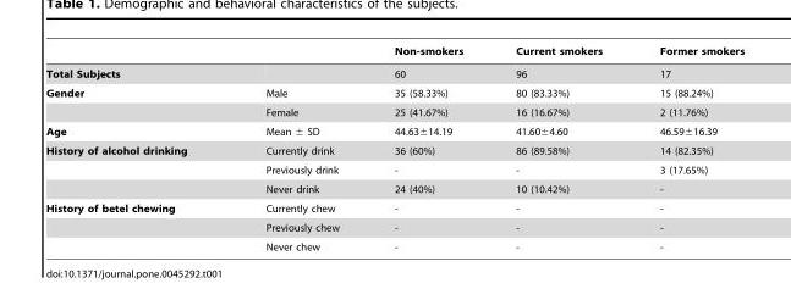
<table><thead><tr><td></td><td></td><td>Non-smokers</td><td>Current smokers</td><td>Former smokers</td></tr></thead><tbody><tr><td>Total Subjects</td><td></td><td>60</td><td>96</td><td>17</td></tr><tr><td rowspan="2">Gender</td><td>Male</td><td>35 (58.33%)</td><td>80 (83.33%)</td><td>15 (88.24%)</td></tr><tr><td>Female</td><td>25 (41.67%)</td><td>16 (16.67%)</td><td>2 (11.76%)</td></tr><tr><td>Age</td><td>Mean ± SD</td><td>44.63±14.19</td><td>41.60±4.60</td><td>46.59±16.39</td></tr><tr><td rowspan="3">History of alcohol drinking</td><td>Currently drink</td><td>36 (60%)</td><td>86 (89.58%)</td><td>14 (82.35%)</td></tr><tr><td>Previously drink</td><td>-</td><td>-</td><td>3 (17.65%)</td></tr><tr><td>Never drink</td><td>24 (40%)</td><td>10 (10.42%)</td><td>-</td></tr><tr><td rowspan="3">History of betel chewing</td><td>Currently chew</td><td>-</td><td>-</td><td>-</td></tr><tr><td>Previously chew</td><td>-</td><td>-</td><td>-</td></tr><tr><td>Never chew</td><td>-</td><td>-</td><td>-</td></tr></tbody></table>